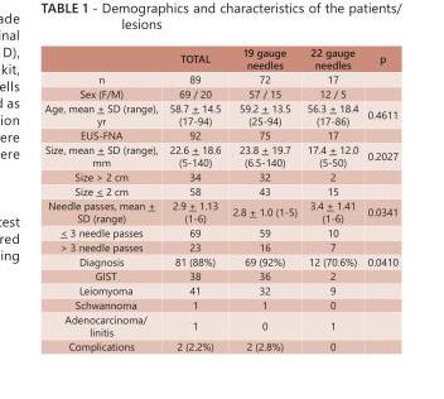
<table><thead><tr><td></td><td>TOTAL</td><td>19 gauge needles</td><td>22 gauge needles</td><td>p</td></tr></thead><tbody><tr><td>n</td><td>89</td><td>72</td><td>17</td><td></td></tr><tr><td>Sex (F/M)</td><td>69 / 20</td><td>57 / 15</td><td>12 / 5</td><td></td></tr><tr><td>Age, mean + SD (range), yr</td><td>58.7 + 14.5 (17-94)</td><td>59.2 + 13.5 (25-94)</td><td>56.3 + 18.4 (17-86)</td><td>0.4611</td></tr><tr><td>EUS-FNA</td><td>92</td><td>75</td><td>17</td><td></td></tr><tr><td>Size, mean + SD (range), mm</td><td>22.6 + 18.6 (5-140)</td><td>23.8 + 19.7 (6.5-140)</td><td>17.4 + 12.0 (5-50)</td><td>0.2027</td></tr><tr><td>Size &gt; 2 cm</td><td>34</td><td>32</td><td>2</td><td></td></tr><tr><td>Size &lt; 2 cm</td><td>58</td><td>43</td><td>15</td><td></td></tr><tr><td>Needle passes, mean + SD (range)</td><td>2.9 + 1.13 (1-6)</td><td>2.8 + 1.0 (1-5)</td><td>3.4 + 1.41 (1-6)</td><td>0.0341</td></tr><tr><td>&lt; 3 needle passes</td><td>69</td><td>59</td><td>10</td><td></td></tr><tr><td>&gt; 3 needle passes</td><td>23</td><td>16</td><td>7</td><td></td></tr><tr><td>Diagnosis</td><td>81 (88%)</td><td>69 (92%)</td><td>12 (70.6%)</td><td>0.0410</td></tr><tr><td>GIST</td><td>38</td><td>36</td><td>2</td><td></td></tr><tr><td>Leiomyoma</td><td>41</td><td>32</td><td>9</td><td></td></tr><tr><td>Schwannoma</td><td>1</td><td>1</td><td>0</td><td></td></tr><tr><td>Adenocarcinoma/ linitis</td><td>1</td><td>0</td><td>1</td><td></td></tr><tr><td>Complications</td><td>2 (2.2%)</td><td>2 (2.8%)</td><td>0</td><td></td></tr></tbody></table>